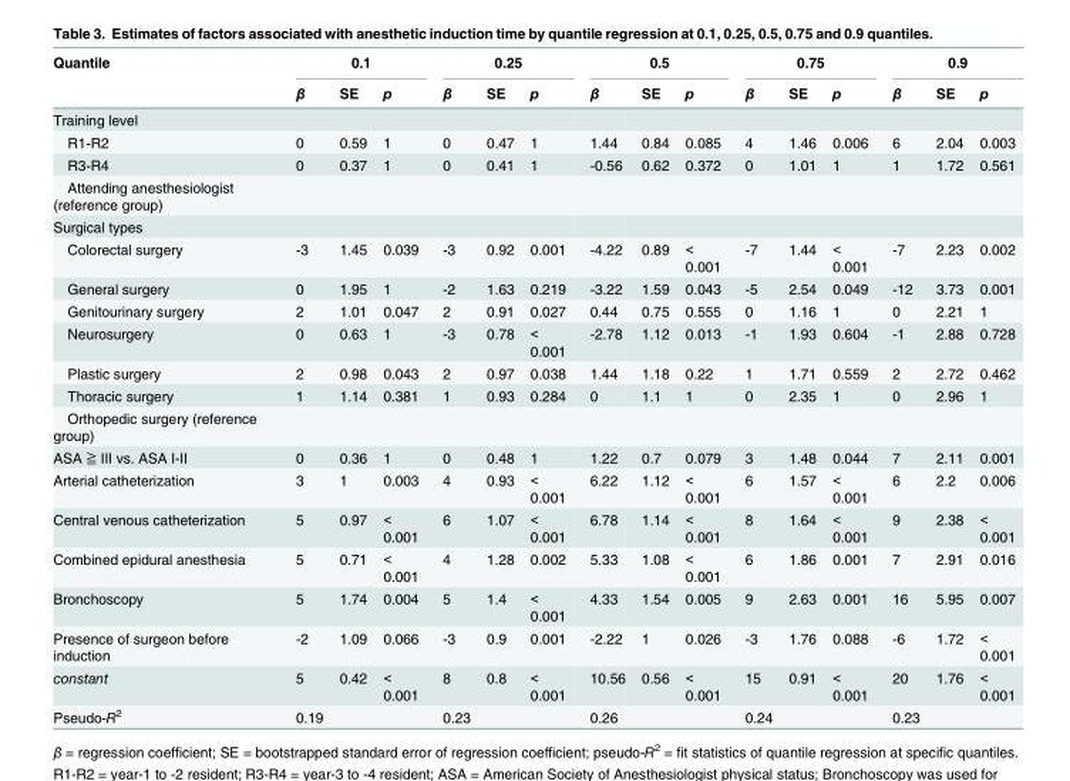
<table><thead><tr><td rowspan="2">Quantile</td><td colspan="3">0.1</td><td colspan="3">0.25</td><td colspan="3">0.5</td><td colspan="3">0.75</td><td colspan="3">0.9</td></tr><tr><td>β</td><td>SE</td><td>p</td><td>β</td><td>SE</td><td>p</td><td>β</td><td>SE</td><td>p</td><td>β</td><td>SE</td><td>p</td><td>β</td><td>SE</td><td>p</td></tr></thead><tbody><tr><td colspan="16">Training level</td></tr><tr><td>R1-R2</td><td>0</td><td>0.59</td><td>1</td><td>0</td><td>0.47</td><td>1</td><td>1.44</td><td>0.84</td><td>0.085</td><td>4</td><td>1.46</td><td>0.006</td><td>6</td><td>2.04</td><td>0.003</td></tr><tr><td>R3-R4</td><td>0</td><td>0.37</td><td>1</td><td>0</td><td>0.41</td><td>1</td><td>-0.56</td><td>0.62</td><td>0.372</td><td>0</td><td>1.01</td><td>1</td><td>1</td><td>1.72</td><td>0.561</td></tr><tr><td colspan="16">Attending anesthesiologist (reference group)</td></tr><tr><td colspan="16">Surgical types</td></tr><tr><td>Colorectal surgery</td><td>-3</td><td>1.45</td><td>0.039</td><td>-3</td><td>0.92</td><td>0.001</td><td>-4.22</td><td>0.89</td><td>&lt; 0.001</td><td>-7</td><td>1.44</td><td>&lt; 0.001</td><td>-7</td><td>2.23</td><td>0.002</td></tr><tr><td>General surgery</td><td>0</td><td>1.95</td><td>1</td><td>-2</td><td>1.63</td><td>0.219</td><td>-3.22</td><td>1.59</td><td>0.043</td><td>-5</td><td>2.54</td><td>0.049</td><td>-12</td><td>3.73</td><td>0.001</td></tr><tr><td>Genitourinary surgery</td><td>2</td><td>1.01</td><td>0.047</td><td>2</td><td>0.91</td><td>0.027</td><td>0.44</td><td>0.75</td><td>0.555</td><td>0</td><td>1.16</td><td>1</td><td>0</td><td>2.21</td><td>1</td></tr><tr><td>Neurosurgery</td><td>0</td><td>0.63</td><td>1</td><td>-3</td><td>0.78</td><td>&lt; 0.001</td><td>-2.78</td><td>1.12</td><td>0.013</td><td>-1</td><td>1.93</td><td>0.604</td><td>-1</td><td>2.88</td><td>0.728</td></tr><tr><td>Plastic surgery</td><td>2</td><td>0.98</td><td>0.043</td><td>2</td><td>0.97</td><td>0.038</td><td>1.44</td><td>1.18</td><td>0.22</td><td>1</td><td>1.71</td><td>0.559</td><td>2</td><td>2.72</td><td>0.462</td></tr><tr><td>Thoracic surgery</td><td>1</td><td>1.14</td><td>0.381</td><td>1</td><td>0.93</td><td>0.284</td><td>0</td><td>1.1</td><td>1</td><td>0</td><td>2.35</td><td>1</td><td>0</td><td>2.96</td><td>1</td></tr><tr><td colspan="16">Orthopedic surgery (reference group)</td></tr><tr><td>ASA ≧ III vs. ASA I-II</td><td>0</td><td>0.36</td><td>1</td><td>0</td><td>0.48</td><td>1</td><td>1.22</td><td>0.7</td><td>0.079</td><td>3</td><td>1.48</td><td>0.044</td><td>7</td><td>2.11</td><td>0.001</td></tr><tr><td>Arterial catheterization</td><td>3</td><td>1</td><td>0.003</td><td>4</td><td>0.93</td><td>&lt; 0.001</td><td>6.22</td><td>1.12</td><td>&lt; 0.001</td><td>6</td><td>1.57</td><td>&lt; 0.001</td><td>6</td><td>2.2</td><td>0.006</td></tr><tr><td>Central venous catheterization</td><td>5</td><td>0.97</td><td>&lt; 0.001</td><td>6</td><td>1.07</td><td>&lt; 0.001</td><td>6.78</td><td>1.14</td><td>&lt; 0.001</td><td>8</td><td>1.64</td><td>&lt; 0.001</td><td>9</td><td>2.38</td><td>&lt; 0.001</td></tr><tr><td>Combined epidural anesthesia</td><td>5</td><td>0.71</td><td>&lt; 0.001</td><td>4</td><td>1.28</td><td>0.002</td><td>5.33</td><td>1.08</td><td>&lt; 0.001</td><td>6</td><td>1.86</td><td>0.001</td><td>7</td><td>2.91</td><td>0.016</td></tr><tr><td>Bronchoscopy</td><td>5</td><td>1.74</td><td>0.004</td><td>5</td><td>1.4</td><td>&lt; 0.001</td><td>4.33</td><td>1.54</td><td>0.005</td><td>9</td><td>2.63</td><td>0.001</td><td>16</td><td>5.95</td><td>0.007</td></tr><tr><td>Presence of surgeon before induction</td><td>-2</td><td>1.09</td><td>0.066</td><td>-3</td><td>0.9</td><td>0.001</td><td>-2.22</td><td>1</td><td>0.026</td><td>-3</td><td>1.76</td><td>0.088</td><td>-6</td><td>1.72</td><td>&lt; 0.001</td></tr><tr><td>constant</td><td>5</td><td>0.42</td><td>&lt; 0.001</td><td>8</td><td>0.8</td><td>&lt; 0.001</td><td>10.56</td><td>0.56</td><td>&lt; 0.001</td><td>15</td><td>0.91</td><td>&lt; 0.001</td><td>20</td><td>1.76</td><td>&lt; 0.001</td></tr><tr><td>Pseudo-R<sup>2</sup></td><td>0.19</td><td></td><td></td><td>0.23</td><td></td><td></td><td>0.26</td><td></td><td></td><td>0.24</td><td></td><td></td><td>0.23</td><td></td><td></td></tr></tbody></table>